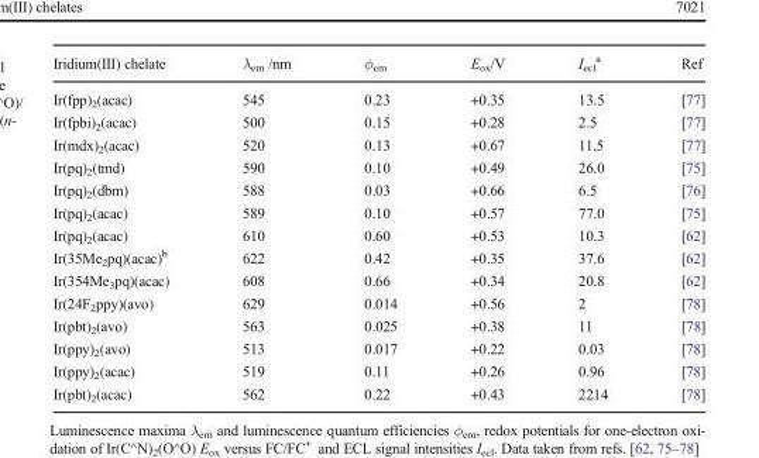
<table><thead><tr><td>Iridium(III) chelate</td><td>λ<sub>em</sub> /nm</td><td>ϕ<sub>em</sub></td><td>E<sub>ox</sub>/V</td><td>I<sub>ecl</sub> <sup>a</sup></td><td>Ref</td></tr></thead><tbody><tr><td>Ir(fpp)<sub>2</sub>(acac)</td><td>545</td><td>0.23</td><td>+0.35</td><td>13.5</td><td>[77]</td></tr><tr><td>Ir(fpbi)<sub>2</sub>(acac)</td><td>500</td><td>0.15</td><td>+0.28</td><td>2.5</td><td>[77]</td></tr><tr><td>Ir(mdx)<sub>2</sub>(acac)</td><td>520</td><td>0.13</td><td>+0.67</td><td>11.5</td><td>[77]</td></tr><tr><td>Ir(pq)<sub>2</sub>(tmd)</td><td>590</td><td>0.10</td><td>+0.49</td><td>26.0</td><td>[75]</td></tr><tr><td>Ir(pq)<sub>2</sub>(dbm)</td><td>588</td><td>0.03</td><td>+0.66</td><td>6.5</td><td>[76]</td></tr><tr><td>Ir(pq)<sub>2</sub>(acac)</td><td>589</td><td>0.10</td><td>+0.57</td><td>77.0</td><td>[75]</td></tr><tr><td>Ir(pq)<sub>2</sub>(acac)</td><td>610</td><td>0.60</td><td>+0.53</td><td>10.3</td><td>[62]</td></tr><tr><td>Ir(35Me<sub>2</sub>pq)(acac)<sup>b</sup></td><td>622</td><td>0.42</td><td>+0.35</td><td>37.6</td><td>[62]</td></tr><tr><td>Ir(354Me<sub>3</sub>pq)(acac)</td><td>608</td><td>0.66</td><td>+0.34</td><td>20.8</td><td>[62]</td></tr><tr><td>Ir(24F<sub>2</sub>ppy)(avo)</td><td>629</td><td>0.014</td><td>+0.56</td><td>2</td><td>[78]</td></tr><tr><td>Ir(pbt)<sub>2</sub>(avo)</td><td>563</td><td>0.025</td><td>+0.38</td><td>11</td><td>[78]</td></tr><tr><td>Ir(ppy)<sub>2</sub>(avo)</td><td>513</td><td>0.017</td><td>+0.22</td><td>0.03</td><td>[78]</td></tr><tr><td>Ir(ppy)<sub>2</sub>(acac)</td><td>519</td><td>0.11</td><td>+0.26</td><td>0.96</td><td>[78]</td></tr><tr><td>Ir(pbt)<sub>2</sub>(acac)</td><td>562</td><td>0.22</td><td>+0.43</td><td>2214</td><td>[78]</td></tr></tbody></table>